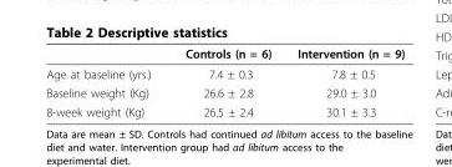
<table><thead><tr><td></td><td>Controls (n = 6)</td><td>Intervention (n = 9)</td></tr></thead><tbody><tr><td>Age at baseline (yrs.)</td><td>7.4 ± 0.3</td><td>7.8 ± 0.5</td></tr><tr><td>Baseline weight (Kg)</td><td>26.6 ± 2.8</td><td>29.0 ± 3.0</td></tr><tr><td>8-week weight (Kg)</td><td>26.5 ± 2.4</td><td>30.1 ± 3.3</td></tr></tbody></table>